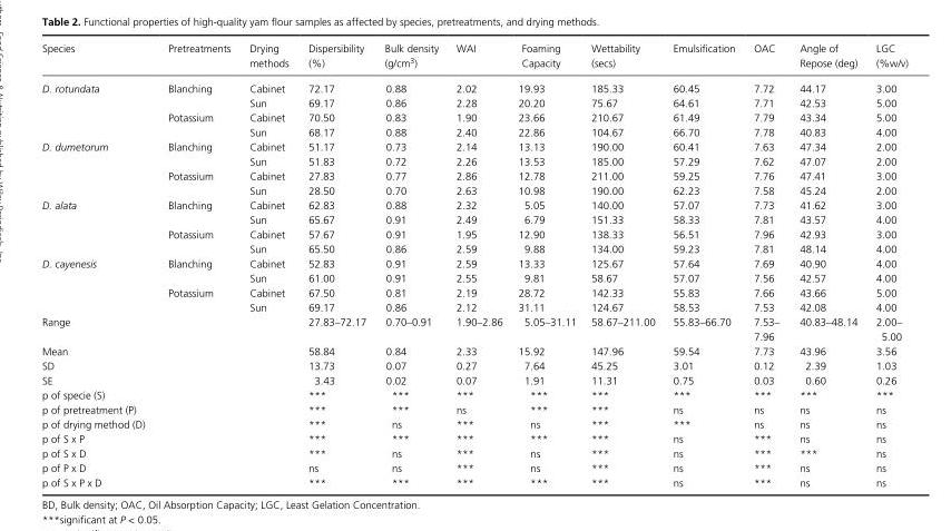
<table><thead><tr><td>Species</td><td>Pretreatments</td><td>Drying methods</td><td>Dispersibility (%)</td><td>Bulk density (g/cm <sup>3</sup> )</td><td>WAI</td><td>Foaming Capacity</td><td>Wettability (secs)</td><td>Emulsifi cation</td><td>OAC</td><td>Angle of Repose (deg)</td><td>LGC (%w/v)</td></tr></thead><tbody><tr><td rowspan="4">D. rotundata</td><td rowspan="2">Blanching</td><td>Cabinet</td><td>72.17</td><td>0.88</td><td>2.02</td><td>19.93</td><td>185.33</td><td>60.45</td><td>7.72</td><td>44.17</td><td>3.00</td></tr><tr><td>Sun</td><td>69.17</td><td>0.86</td><td>2.28</td><td>20.20</td><td>75.67</td><td>64.61</td><td>7.71</td><td>42.53</td><td>5.00</td></tr><tr><td rowspan="2">Potassium</td><td>Cabinet</td><td>70.50</td><td>0.83</td><td>1.90</td><td>23.66</td><td>210.67</td><td>61.49</td><td>7.79</td><td>43.34</td><td>5.00</td></tr><tr><td>Sun</td><td>68.17</td><td>0.88</td><td>2.40</td><td>22.86</td><td>104.67</td><td>66.70</td><td>7.78</td><td>40.83</td><td>4.00</td></tr><tr><td rowspan="4">D. dumetorum</td><td rowspan="2">Blanching</td><td>Cabinet</td><td>51.17</td><td>0.73</td><td>2.14</td><td>13.13</td><td>190.00</td><td>60.41</td><td>7.63</td><td>47.34</td><td>2.00</td></tr><tr><td>Sun</td><td>51.83</td><td>0.72</td><td>2.26</td><td>13.53</td><td>185.00</td><td>57.29</td><td>7.62</td><td>47.07</td><td>2.00</td></tr><tr><td rowspan="2">Potassium</td><td>Cabinet</td><td>27.83</td><td>0.77</td><td>2.86</td><td>12.78</td><td>211.00</td><td>59.25</td><td>7.76</td><td>47.41</td><td>3.00</td></tr><tr><td>Sun</td><td>28.50</td><td>0.70</td><td>2.63</td><td>10.98</td><td>190.00</td><td>62.23</td><td>7.58</td><td>45.24</td><td>2.00</td></tr><tr><td rowspan="4">D. alata</td><td rowspan="2">Blanching</td><td>Cabinet</td><td>62.83</td><td>0.88</td><td>2.32</td><td>5.05</td><td>140.00</td><td>57.07</td><td>7.73</td><td>41.62</td><td>3.00</td></tr><tr><td>Sun</td><td>65.67</td><td>0.91</td><td>2.49</td><td>6.79</td><td>151.33</td><td>58.33</td><td>7.81</td><td>43.57</td><td>4.00</td></tr><tr><td rowspan="2">Potassium</td><td>Cabinet</td><td>57.67</td><td>0.91</td><td>1.95</td><td>12.90</td><td>138.33</td><td>56.51</td><td>7.96</td><td>42.93</td><td>3.00</td></tr><tr><td>Sun</td><td>65.50</td><td>0.86</td><td>2.59</td><td>9.88</td><td>134.00</td><td>59.23</td><td>7.81</td><td>48.14</td><td>4.00</td></tr><tr><td rowspan="4">D. cayenesis</td><td rowspan="2">Blanching</td><td>Cabinet</td><td>52.83</td><td>0.91</td><td>2.59</td><td>13.33</td><td>125.67</td><td>57.64</td><td>7.69</td><td>40.90</td><td>4.00</td></tr><tr><td>Sun</td><td>61.00</td><td>0.91</td><td>2.55</td><td>9.81</td><td>58.67</td><td>57.07</td><td>7.56</td><td>42.57</td><td>4.00</td></tr><tr><td rowspan="2">Potassium</td><td>Cabinet</td><td>67.50</td><td>0.81</td><td>2.19</td><td>28.72</td><td>142.33</td><td>55.83</td><td>7.66</td><td>43.66</td><td>5.00</td></tr><tr><td>Sun</td><td>69.17</td><td>0.86</td><td>2.12</td><td>31.11</td><td>124.67</td><td>58.53</td><td>7.53</td><td>42.08</td><td>4.00</td></tr><tr><td>Range</td><td></td><td></td><td>27.83–72.17</td><td>0.70–0.91</td><td>1.90–2.86</td><td>5.05–31.11</td><td>58.67–211.00</td><td>55.83–66.70</td><td>7.53– 7.96</td><td>40.83–48.14</td><td>2.00– 5.00</td></tr><tr><td>Mean</td><td></td><td></td><td>58.84</td><td>0.84</td><td>2.33</td><td>15.92</td><td>147.96</td><td>59.54</td><td>7.73</td><td>43.96</td><td>3.56</td></tr><tr><td>SD</td><td></td><td></td><td>13.73</td><td>0.07</td><td>0.27</td><td>7.64</td><td>45.25</td><td>3.01</td><td>0.12</td><td>2.39</td><td>1.03</td></tr><tr><td>SE</td><td></td><td></td><td>3.43</td><td>0.02</td><td>0.07</td><td>1.91</td><td>11.31</td><td>0.75</td><td>0.03</td><td>0.60</td><td>0.26</td></tr><tr><td>p of specie (S)</td><td></td><td></td><td>***</td><td>***</td><td>***</td><td>***</td><td>***</td><td>***</td><td>***</td><td>***</td><td>***</td></tr><tr><td>p of pretreatment (P)</td><td></td><td></td><td>***</td><td>***</td><td>ns</td><td>***</td><td>***</td><td>ns</td><td>ns</td><td>ns</td><td>ns</td></tr><tr><td>p of drying method (D)</td><td></td><td></td><td>***</td><td>ns</td><td>***</td><td>ns</td><td>***</td><td>***</td><td>ns</td><td>ns</td><td>ns</td></tr><tr><td>p of S x P</td><td></td><td></td><td>***</td><td>***</td><td>***</td><td>***</td><td>***</td><td>ns</td><td>***</td><td>ns</td><td>ns</td></tr><tr><td>p of S x D</td><td></td><td></td><td>***</td><td>ns</td><td>***</td><td>ns</td><td>***</td><td>ns</td><td>***</td><td>***</td><td>ns</td></tr><tr><td>p of P x D</td><td></td><td></td><td>ns</td><td>ns</td><td>***</td><td>ns</td><td>***</td><td>ns</td><td>***</td><td>ns</td><td>ns</td></tr><tr><td>p of S x P x D</td><td></td><td></td><td>***</td><td>***</td><td>***</td><td>***</td><td>***</td><td>ns</td><td>***</td><td>ns</td><td>ns</td></tr></tbody></table>